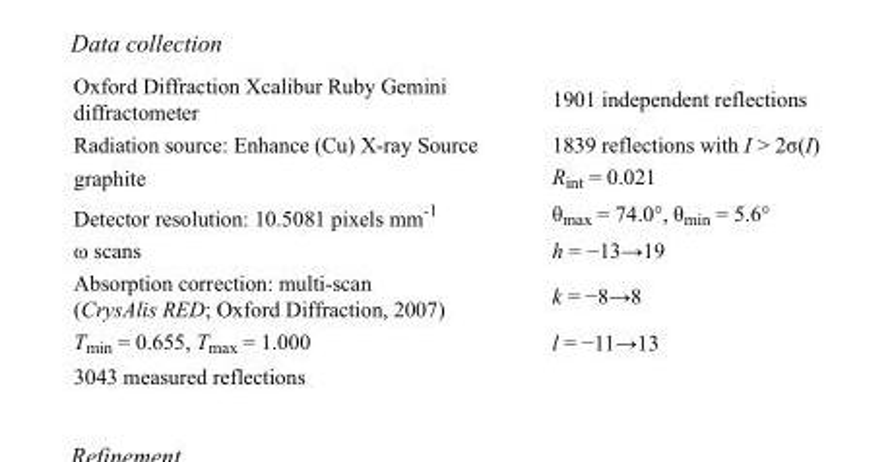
<table><tbody><tr><td>Oxford Diffraction Xcalibur Ruby Gemini diffractometer</td><td>1901 independent reflections</td></tr><tr><td>Radiation source: Enhance (Cu) X-ray Source</td><td>1839 reflections with I &gt; 2σ(I)</td></tr><tr><td>graphite</td><td>R<sub>int</sub> = 0.021</td></tr><tr><td>Detector resolution: 10.5081 pixels mm<sup>-1</sup></td><td>θ<sub>max</sub> = 74.0°, θ<sub>min</sub> = 5.6°</td></tr><tr><td>ω scans</td><td>h = −13→19</td></tr><tr><td>Absorption correction: multi-scan (CrysAlis RED; Oxford Diffraction, 2007)</td><td>k = −8→8</td></tr><tr><td>T<sub>min</sub> = 0.655, T<sub>max</sub> = 1.000</td><td>l = −11→13</td></tr><tr><td>3043 measured reflections</td><td></td></tr></tbody></table>